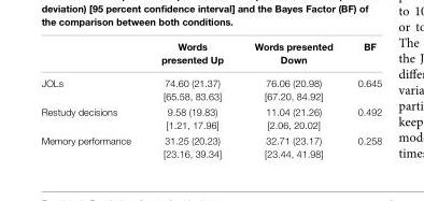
<table><thead><tr><td></td><td>Words presented Up</td><td>Words presented Down</td><td>BF</td></tr></thead><tbody><tr><td>JOLs</td><td>74.60 (21.37) [65.58, 83.63]</td><td>76.06 (20.98) [67.20, 84.92]</td><td>0.645</td></tr><tr><td>Restudy decisions</td><td>9.58 (19.83) [1.21, 17.96]</td><td>11.04 (21.26) [2.06, 20.02]</td><td>0.492</td></tr><tr><td>Memory performance</td><td>31.25 (20.23) [23.16, 39.34]</td><td>32.71 (23.17) [23.44, 41.98]</td><td>0.258</td></tr></tbody></table>